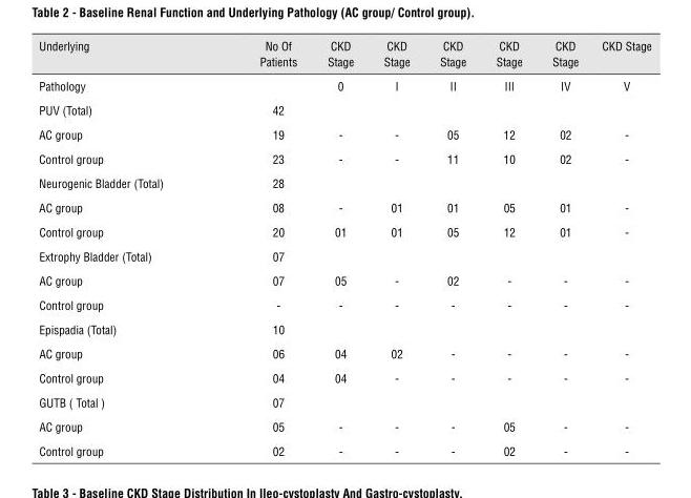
<table><thead><tr><td>Underlying</td><td>No Of Patients</td><td>CKD Stage</td><td>CKD Stage</td><td>CKD Stage</td><td>CKD Stage</td><td>CKD Stage</td><td>CKD Stage</td></tr></thead><tbody><tr><td>Pathology</td><td></td><td>0</td><td>I</td><td>II</td><td>III</td><td>IV</td><td>V</td></tr><tr><td>PUV (Total)</td><td>42</td><td></td><td></td><td></td><td></td><td></td><td></td></tr><tr><td>AC group</td><td>19</td><td>-</td><td>-</td><td>05</td><td>12</td><td>02</td><td>-</td></tr><tr><td>Control group</td><td>23</td><td>-</td><td>-</td><td>11</td><td>10</td><td>02</td><td>-</td></tr><tr><td>Neurogenic Bladder (Total)</td><td>28</td><td></td><td></td><td></td><td></td><td></td><td></td></tr><tr><td>AC group</td><td>08</td><td>-</td><td>01</td><td>01</td><td>05</td><td>01</td><td>-</td></tr><tr><td>Control group</td><td>20</td><td>01</td><td>01</td><td>05</td><td>12</td><td>01</td><td>-</td></tr><tr><td>Extrophy Bladder (Total)</td><td>07</td><td></td><td></td><td></td><td></td><td></td><td></td></tr><tr><td>AC group</td><td>07</td><td>05</td><td>-</td><td>02</td><td>-</td><td>-</td><td>-</td></tr><tr><td>Control group</td><td>-</td><td>-</td><td>-</td><td>-</td><td>-</td><td>-</td><td>-</td></tr><tr><td>Epispadia (Total)</td><td>10</td><td></td><td></td><td></td><td></td><td></td><td></td></tr><tr><td>AC group</td><td>06</td><td>04</td><td>02</td><td>-</td><td>-</td><td>-</td><td>-</td></tr><tr><td>Control group</td><td>04</td><td>04</td><td>-</td><td>-</td><td>-</td><td>-</td><td>-</td></tr><tr><td>GUTB ( Total )</td><td>07</td><td></td><td></td><td></td><td></td><td></td><td></td></tr><tr><td>AC group</td><td>05</td><td>-</td><td>-</td><td>-</td><td>05</td><td>-</td><td>-</td></tr><tr><td>Control group</td><td>02</td><td>-</td><td>-</td><td>-</td><td>02</td><td>-</td><td>-</td></tr></tbody></table>